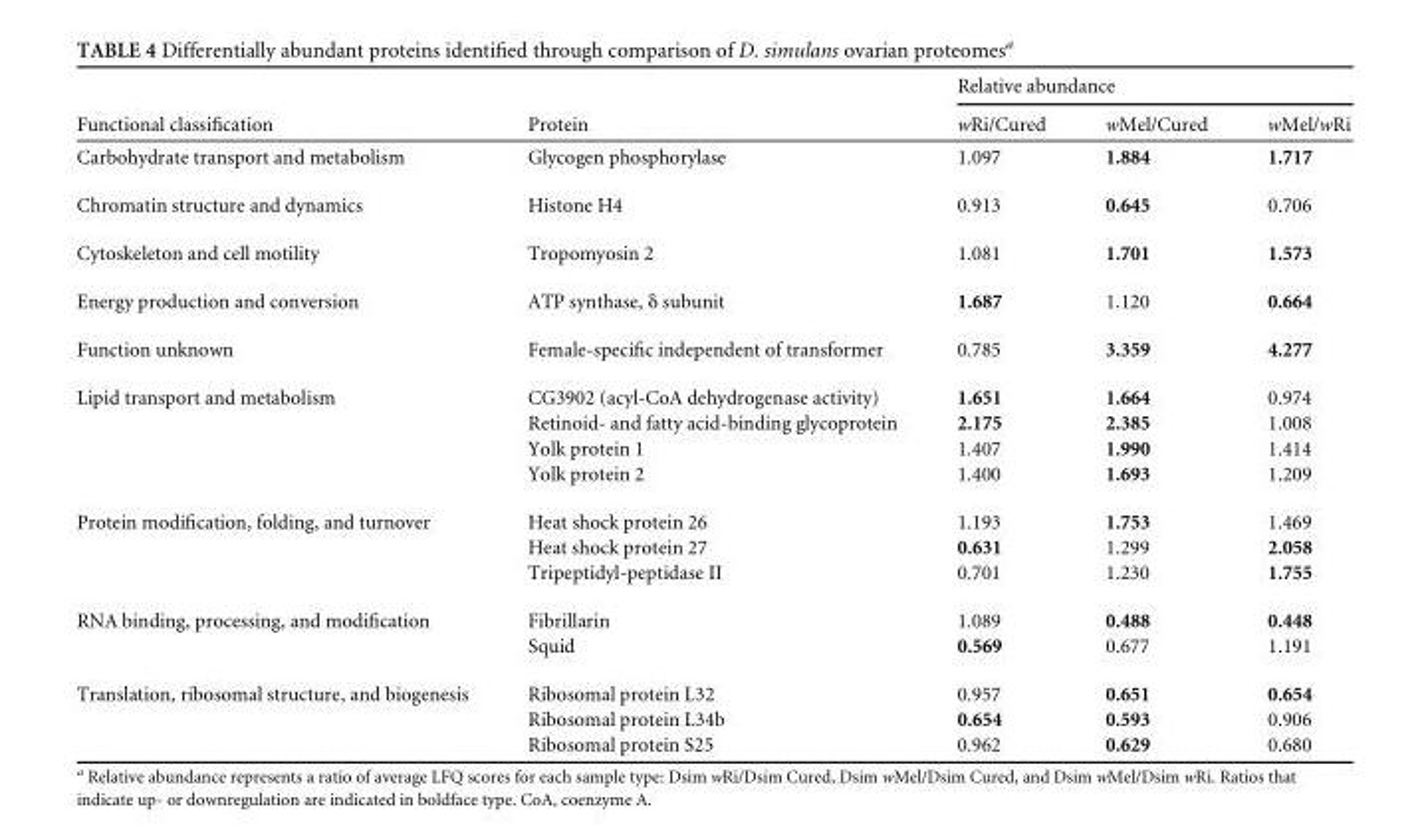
<table><thead><tr><td rowspan="2">Functional classification</td><td rowspan="2">Protein</td><td colspan="3">Relative abundance</td></tr><tr><td>wRi/Cured</td><td>wMel/Cured</td><td>wMel/wRi</td></tr></thead><tbody><tr><td>Carbohydrate transport and metabolism</td><td>Glycogen phosphorylase</td><td>1.097</td><td>1.884</td><td>1.717</td></tr><tr><td>Chromatin structure and dynamics</td><td>Histone H4</td><td>0.913</td><td>0.645</td><td>0.706</td></tr><tr><td>Cytoskeleton and cell motility</td><td>Tropomyosin 2</td><td>1.081</td><td>1.701</td><td>1.573</td></tr><tr><td>Energy production and conversion</td><td>ATP synthase, δ subunit</td><td>1.687</td><td>1.120</td><td>0.664</td></tr><tr><td>Function unknown</td><td>Female-specific independent of transformer</td><td>0.785</td><td>3.359</td><td>4.277</td></tr><tr><td rowspan="4">Lipid transport and metabolism</td><td>CG3902 (acyl-CoA dehydrogenase activity)</td><td>1.651</td><td>1.664</td><td>0.974</td></tr><tr><td>Retinoid- and fatty acid-binding glycoprotein</td><td>2.175</td><td>2.385</td><td>1.008</td></tr><tr><td>Yolk protein 1</td><td>1.407</td><td>1.990</td><td>1.414</td></tr><tr><td>Yolk protein 2</td><td>1.400</td><td>1.693</td><td>1.209</td></tr><tr><td rowspan="3">Protein modification, folding, and turnover</td><td>Heat shock protein 26</td><td>1.193</td><td>1.753</td><td>1.469</td></tr><tr><td>Heat shock protein 27</td><td>0.631</td><td>1.299</td><td>2.058</td></tr><tr><td>Tripeptidyl-peptidase II</td><td>0.701</td><td>1.230</td><td>1.755</td></tr><tr><td rowspan="2">RNA binding, processing, and modification</td><td>Fibrillarin</td><td>1.089</td><td>0.488</td><td>0.448</td></tr><tr><td>Squid</td><td>0.569</td><td>0.677</td><td>1.191</td></tr><tr><td rowspan="3">Translation, ribosomal structure, and biogenesis</td><td>Ribosomal protein L32</td><td>0.957</td><td>0.651</td><td>0.654</td></tr><tr><td>Ribosomal protein L34b</td><td>0.654</td><td>0.593</td><td>0.906</td></tr><tr><td>Ribosomal protein S25</td><td>0.962</td><td>0.629</td><td>0.680</td></tr></tbody></table>